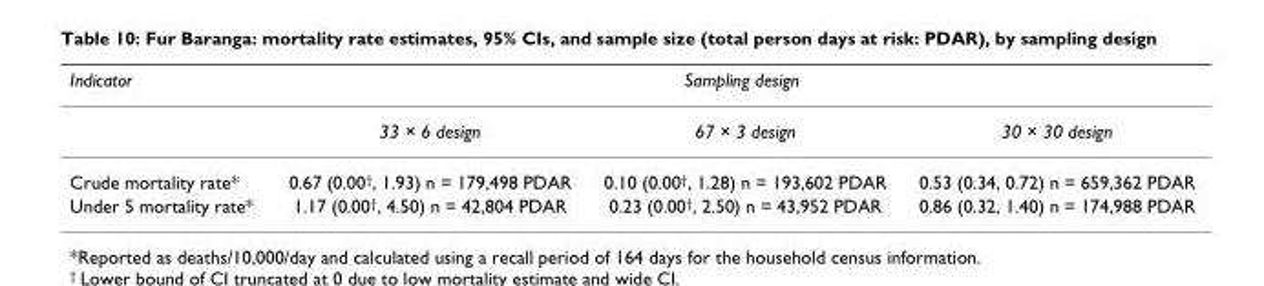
<table><thead><tr><td rowspan="2">Indicator</td><td colspan="3">Sampling design</td></tr><tr><td>33 × 6 design</td><td>67 × 3 design</td><td>30 × 30 design</td></tr></thead><tbody><tr><td>Crude mortality rate*</td><td>0.67 (0.00<sup>†</sup>, 1.93) n = 179,498 PDAR</td><td>0.10 (0.00<sup>†</sup>, 1.28) n = 193,602 PDAR</td><td>0.53 (0.34, 0.72) n = 659,362 PDAR</td></tr><tr><td>Under 5 mortality rate*</td><td>1.17 (0.00<sup>†</sup>, 4.50) n = 42,804 PDAR</td><td>0.23 (0.00<sup>†</sup>, 2.50) n = 43,952 PDAR</td><td>0.86 (0.32, 1.40) n = 174,988 PDAR</td></tr></tbody></table>